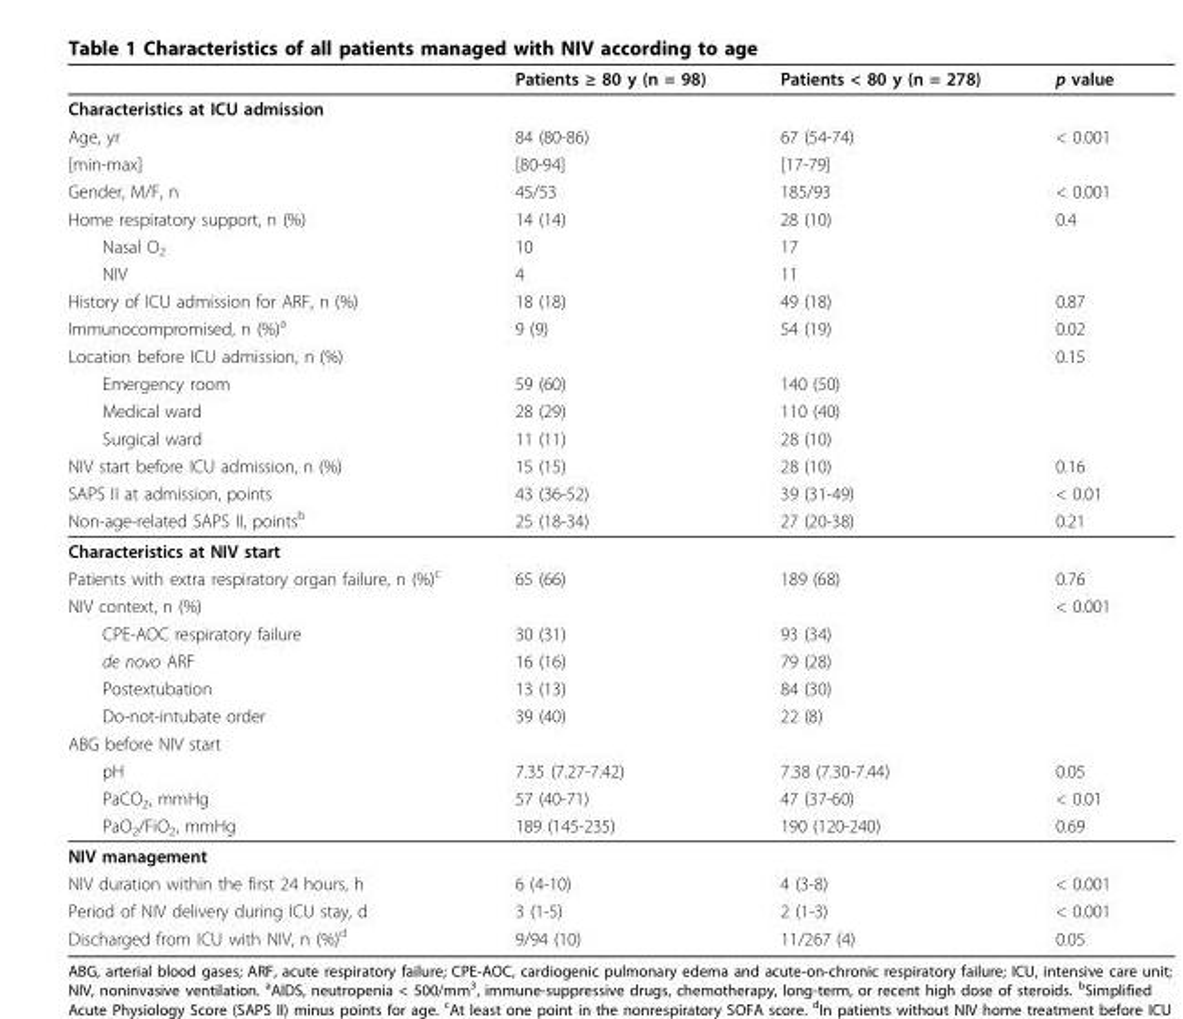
<table><thead><tr><td></td><td>Patients ≥ 80 y (n = 98)</td><td>Patients &lt; 80 y (n = 278)</td><td>p value</td></tr></thead><tbody><tr><td colspan="4">Characteristics at ICU admission</td></tr><tr><td>Age, yr</td><td>84 (80-86)</td><td>67 (54-74)</td><td>&lt; 0.001</td></tr><tr><td>[min-max]</td><td>[80-94]</td><td>[17-79]</td><td></td></tr><tr><td>Gender, M/F, n</td><td>45/53</td><td>185/93</td><td>&lt; 0.001</td></tr><tr><td>Home respiratory support, n (%)</td><td>14 (14)</td><td>28 (10)</td><td>0.4</td></tr><tr><td>Nasal O<sub>2</sub></td><td>10</td><td>17</td><td></td></tr><tr><td>NIV</td><td>4</td><td>11</td><td></td></tr><tr><td>History of ICU admission for ARF, n (%)</td><td>18 (18)</td><td>49 (18)</td><td>0.87</td></tr><tr><td>Immunocompromised, n (%)<sup>a</sup></td><td>9 (9)</td><td>54 (19)</td><td>0.02</td></tr><tr><td>Location before ICU admission, n (%)</td><td></td><td></td><td>0.15</td></tr><tr><td>Emergency room</td><td>59 (60)</td><td>140 (50)</td><td></td></tr><tr><td>Medical ward</td><td>28 (29)</td><td>110 (40)</td><td></td></tr><tr><td>Surgical ward</td><td>11 (11)</td><td>28 (10)</td><td></td></tr><tr><td>NIV start before ICU admission, n (%)</td><td>15 (15)</td><td>28 (10)</td><td>0.16</td></tr><tr><td>SAPS II at admission, points</td><td>43 (36-52)</td><td>39 (31-49)</td><td>&lt; 0.01</td></tr><tr><td>Non-age-related SAPS II, points<sup>b</sup></td><td>25 (18-34)</td><td>27 (20-38)</td><td>0.21</td></tr><tr><td colspan="4">Characteristics at NIV start</td></tr><tr><td>Patients with extra respiratory organ failure, n (%)<sup>c</sup></td><td>65 (66)</td><td>189 (68)</td><td>0.76</td></tr><tr><td>NIV context, n (%)</td><td></td><td></td><td>&lt; 0.001</td></tr><tr><td>CPE-AOC respiratory failure</td><td>30 (31)</td><td>93 (34)</td><td></td></tr><tr><td>de novo ARF</td><td>16 (16)</td><td>79 (28)</td><td></td></tr><tr><td>Postextubation</td><td>13 (13)</td><td>84 (30)</td><td></td></tr><tr><td>Do-not-intubate order</td><td>39 (40)</td><td>22 (8)</td><td></td></tr><tr><td colspan="4">ABG before NIV start</td></tr><tr><td>pH</td><td>7.35 (7.27-7.42)</td><td>7.38 (7.30-7.44)</td><td>0.05</td></tr><tr><td>PaCO<sub>2</sub>, mmHg</td><td>57 (40-71)</td><td>47 (37-60)</td><td>&lt; 0.01</td></tr><tr><td>PaO<sub>2</sub>/FiO<sub>2</sub>, mmHg</td><td>189 (145-235)</td><td>190 (120-240)</td><td>0.69</td></tr><tr><td colspan="4">NIV management</td></tr><tr><td>NIV duration within the first 24 hours, h</td><td>6 (4-10)</td><td>4 (3-8)</td><td>&lt; 0.001</td></tr><tr><td>Period of NIV delivery during ICU stay, d</td><td>3 (1-5)</td><td>2 (1-3)</td><td>&lt; 0.001</td></tr><tr><td>Discharged from ICU with NIV, n (%)<sup>d</sup></td><td>9/94 (10)</td><td>11/267 (4)</td><td>0.05</td></tr></tbody></table>